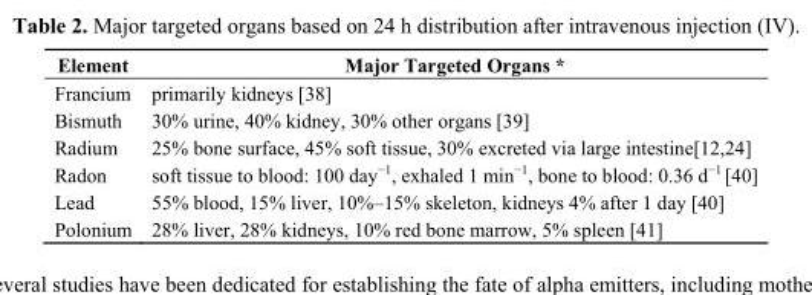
<table><thead><tr><td>Element</td><td>Major Targeted Organs *</td></tr></thead><tbody><tr><td>Francium</td><td>primarily kidneys [38]</td></tr><tr><td>Bismuth</td><td>30% urine, 40% kidney, 30% other organs [39]</td></tr><tr><td>Radium</td><td>25% bone surface, 45% soft tissue, 30% excreted via large intestine[12,24]</td></tr><tr><td>Radon</td><td>soft tissue to blood: 100 day<sup>−1</sup>, exhaled 1 min<sup>−1</sup>, bone to blood: 0.36 d<sup>−1</sup> [40]</td></tr><tr><td>Lead</td><td>55% blood, 15% liver, 10%–15% skeleton, kidneys 4% after 1 day [40]</td></tr><tr><td>Polonium</td><td>28% liver, 28% kidneys, 10% red bone marrow, 5% spleen [41]</td></tr></tbody></table>